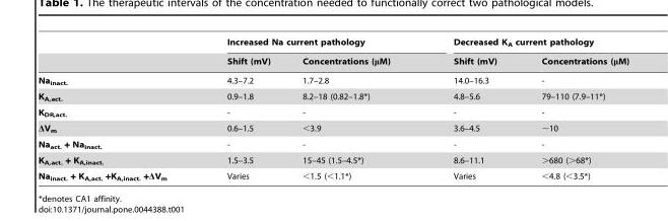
<table><thead><tr><td rowspan="2"></td><td colspan="2">Increased Na current pathology</td><td colspan="2">Decreased K<sub>A</sub> current pathology</td></tr><tr><td>Shift (mV)</td><td>Concentrations (μM)</td><td>Shift (mV)</td><td>Concentrations (μM)</td></tr></thead><tbody><tr><td>Na<sub>inact.</sub></td><td>4.3–7.2</td><td>1.7–2.8</td><td>14.0–16.3</td><td>-</td></tr><tr><td>K<sub>A,act.</sub></td><td>0.9–1.8</td><td>8.2–18 (0.82–1.8*)</td><td>4.8–5.6</td><td>79–110 (7.9–11*)</td></tr><tr><td>K<sub>DR,act.</sub></td><td>-</td><td>-</td><td>-</td><td>-</td></tr><tr><td>ΔV<sub>m</sub></td><td>0.6–1.5</td><td>&lt;3.9</td><td>3.6–4.5</td><td>∼10</td></tr><tr><td>Na<sub>act.</sub> + Na<sub>inact.</sub></td><td>-</td><td>-</td><td>-</td><td>-</td></tr><tr><td>K<sub>A,act.</sub> + K<sub>A,inact.</sub></td><td>1.5–3.5</td><td>15–45 (1.5–4.5*)</td><td>8.6–11.1</td><td>&gt;680 (&gt;68*)</td></tr><tr><td>Na<sub>inact.</sub> + K<sub>A,act.</sub> +K<sub>A,inact.</sub> +ΔV<sub>m</sub></td><td>Varies</td><td>&lt;1.5 (&lt;1.1*)</td><td>Varies</td><td>&lt;4.8 (&lt;3.5*)</td></tr></tbody></table>